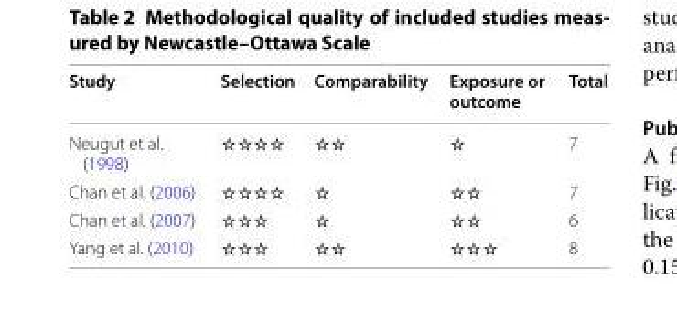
<table><thead><tr><td>Study</td><td>Selection</td><td>Comparability</td><td>Exposure or outcome</td><td>Total</td></tr></thead><tbody><tr><td>Neugut et al. (1998)</td><td>☆☆☆☆</td><td>☆☆</td><td>☆</td><td>7</td></tr><tr><td>Chan et al. (2006)</td><td>☆☆☆☆</td><td>☆</td><td>☆☆</td><td>7</td></tr><tr><td>Chan et al. (2007)</td><td>☆☆☆</td><td>☆</td><td>☆☆</td><td>6</td></tr><tr><td>Yang et al. (2010)</td><td>☆☆☆</td><td>☆☆</td><td>☆☆☆</td><td>8</td></tr></tbody></table>